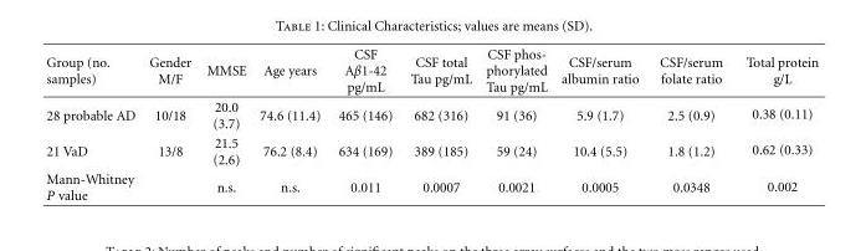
<table><thead><tr><td>Group (no. samples)</td><td>Gender M/F</td><td>MMSE</td><td>Age years</td><td>CSF Aβ1-42 pg/mL</td><td>CSF total Tau pg/mL</td><td>CSF phos- phorylated Tau pg/mL</td><td>CSF/serum albumin ratio</td><td>CSF/serum folate ratio</td><td>Total protein g/L</td></tr></thead><tbody><tr><td>28 probable AD</td><td>10/18</td><td>20.0 (3.7)</td><td>74.6 (11.4)</td><td>465 (146)</td><td>682 (316)</td><td>91 (36)</td><td>5.9 (1.7)</td><td>2.5 (0.9)</td><td>0.38 (0.11)</td></tr><tr><td>21 VaD</td><td>13/8</td><td>21.5 (2.6)</td><td>76.2 (8.4)</td><td>634 (169)</td><td>389 (185)</td><td>59 (24)</td><td>10.4 (5.5)</td><td>1.8 (1.2)</td><td>0.62 (0.33)</td></tr><tr><td>Mann-Whitney P value</td><td></td><td>n.s.</td><td>n.s.</td><td>0.011</td><td>0.0007</td><td>0.0021</td><td>0.0005</td><td>0.0348</td><td>0.002</td></tr></tbody></table>